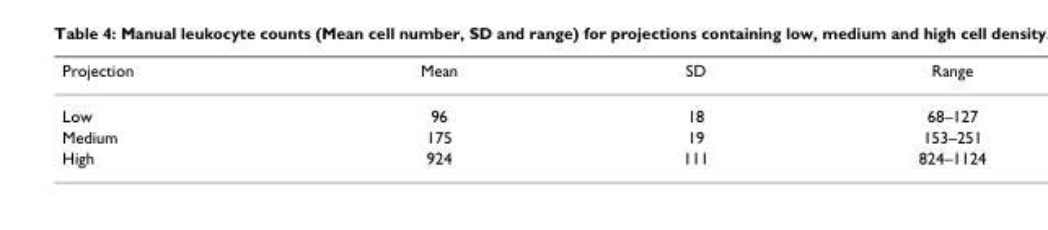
<table><thead><tr><td>Projection</td><td>Mean</td><td>SD</td><td>Range</td></tr></thead><tbody><tr><td>Low</td><td>96</td><td>18</td><td>68–127</td></tr><tr><td>Medium</td><td>175</td><td>19</td><td>153–251</td></tr><tr><td>High</td><td>924</td><td>111</td><td>824–1124</td></tr></tbody></table>